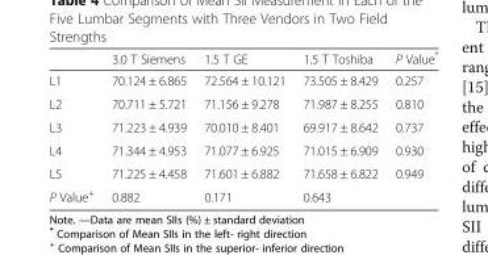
<table><thead><tr><td></td><td>3.0 T Siemens</td><td>1.5 T GE</td><td>1.5 T Toshiba</td><td>P Value*</td></tr></thead><tbody><tr><td>L1</td><td>70.124 ± 6.865</td><td>72.564 ± 10.121</td><td>73.505 ± 8.429</td><td>0.257</td></tr><tr><td>L2</td><td>70.711 ± 5.721</td><td>71.156 ± 9.278</td><td>71.987 ± 8.255</td><td>0.810</td></tr><tr><td>L3</td><td>71.223 ± 4.939</td><td>70.010 ± 8.401</td><td>69.917 ± 8.642</td><td>0.737</td></tr><tr><td>L4</td><td>71.344 ± 4.953</td><td>71.077 ± 6.925</td><td>71.015 ± 6.909</td><td>0.930</td></tr><tr><td>L5</td><td>71.225 ± 4.458</td><td>71.601 ± 6.882</td><td>71.658 ± 6.822</td><td>0.949</td></tr><tr><td>P Value<sup>+</sup></td><td>0.882</td><td>0.171</td><td>0.643</td><td></td></tr></tbody></table>